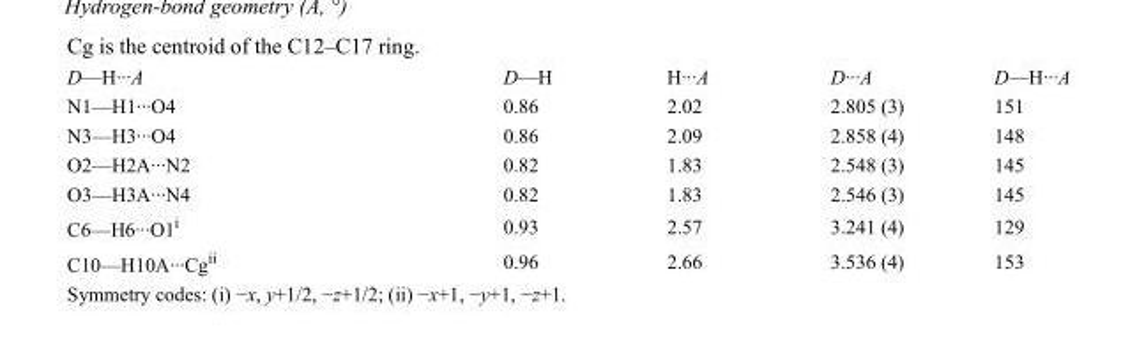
<table><tbody><tr><td>D—H···A</td><td>D—H</td><td>H···A</td><td>D···A</td><td>D—H···A</td></tr><tr><td>N1—H1···O4</td><td>0.86</td><td>2.02</td><td>2.805 (3)</td><td>151</td></tr><tr><td>N3—H3···O4</td><td>0.86</td><td>2.09</td><td>2.858 (4)</td><td>148</td></tr><tr><td>O2—H2A···N2</td><td>0.82</td><td>1.83</td><td>2.548 (3)</td><td>145</td></tr><tr><td>O3—H3A···N4</td><td>0.82</td><td>1.83</td><td>2.546 (3)</td><td>145</td></tr><tr><td>C6—H6···O1<sup>i</sup></td><td>0.93</td><td>2.57</td><td>3.241 (4)</td><td>129</td></tr><tr><td>C10—H10A···Cg<sup>ii</sup></td><td>0.96</td><td>2.66</td><td>3.536 (4)</td><td>153</td></tr></tbody></table>